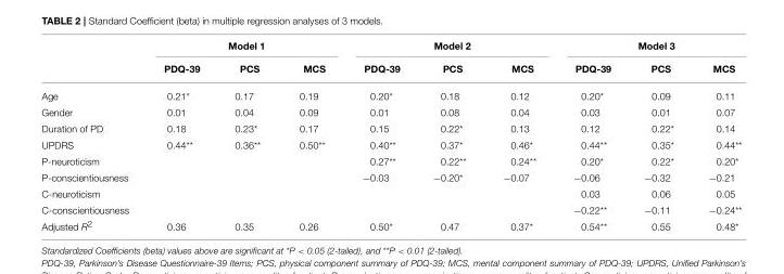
<table><thead><tr><td rowspan="2"></td><td colspan="3">Model 1</td><td colspan="3">Model 2</td><td colspan="3">Model 3</td></tr><tr><td>PDQ-39</td><td>PCS</td><td>MCS</td><td>PDQ-39</td><td>PCS</td><td>MCS</td><td>PDQ-39</td><td>PCS</td><td>MCS</td></tr></thead><tbody><tr><td>Age</td><td>0.21*</td><td>0.17</td><td>0.19</td><td>0.20*</td><td>0.18</td><td>0.12</td><td>0.20*</td><td>0.09</td><td>0.11</td></tr><tr><td>Gender</td><td>0.01</td><td>0.04</td><td>0.09</td><td>0.01</td><td>0.08</td><td>0.04</td><td>0.03</td><td>0.01</td><td>0.07</td></tr><tr><td>Duration of PD</td><td>0.18</td><td>0.23*</td><td>0.17</td><td>0.15</td><td>0.22*</td><td>0.13</td><td>0.12</td><td>0.22*</td><td>0.14</td></tr><tr><td>UPDRS</td><td>0.44**</td><td>0.36**</td><td>0.50**</td><td>0.40**</td><td>0.37*</td><td>0.46*</td><td>0.44**</td><td>0.35*</td><td>0.44**</td></tr><tr><td>P-neuroticism</td><td></td><td></td><td></td><td>0.27**</td><td>0.22**</td><td>0.24**</td><td>0.20*</td><td>0.22*</td><td>0.20*</td></tr><tr><td>P-conscientiousness</td><td></td><td></td><td></td><td>−0.03</td><td>−0.20*</td><td>−0.07</td><td>−0.06</td><td>−0.32</td><td>−0.21</td></tr><tr><td>C-neuroticism</td><td></td><td></td><td></td><td></td><td></td><td></td><td>0.03</td><td>0.06</td><td>0.05</td></tr><tr><td>C-conscientiousness</td><td></td><td></td><td></td><td></td><td></td><td></td><td>−0.22**</td><td>−0.11</td><td>−0.24**</td></tr><tr><td>Adjusted R<sup>2</sup></td><td>0.36</td><td>0.35</td><td>0.26</td><td>0.50*</td><td>0.47</td><td>0.37*</td><td>0.54**</td><td>0.55</td><td>0.48*</td></tr></tbody></table>